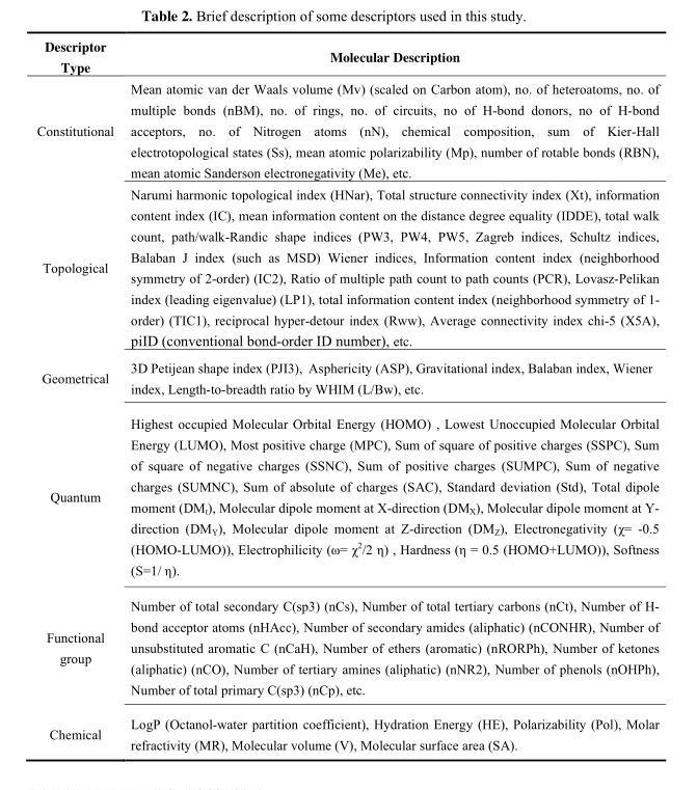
<table><thead><tr><td>Descriptor Type</td><td>Molecular Description</td></tr></thead><tbody><tr><td>Constitutional</td><td>Mean atomic van der Waals volume (Mv) (scaled on Carbon atom), no. of heteroatoms, no. of multiple bonds (nBM), no. of rings, no. of circuits, no of H-bond donors, no of H-bond acceptors, no. of Nitrogen atoms (nN), chemical composition, sum of Kier-Hall electrotopological states (Ss), mean atomic polarizability (Mp), number of rotable bonds (RBN), mean atomic Sanderson electronegativity (Me), etc.</td></tr><tr><td>Topological</td><td>Narumi harmonic topological index (HNar), Total structure connectivity index (Xt), information content index (IC), mean information content on the distance degree equality (IDDE), total walk count, path/walk-Randic shape indices (PW3, PW4, PW5, Zagreb indices, Schultz indices, Balaban J index (such as MSD) Wiener indices, Information content index (neighborhood symmetry of 2-order) (IC2), Ratio of multiple path count to path counts (PCR), Lovasz-Pelikan index (leading eigenvalue) (LP1), total information content index (neighborhood symmetry of 1- order) (TIC1), reciprocal hyper-detour index (Rww), Average connectivity index chi-5 (X5A), piID (conventional bond-order ID number), etc.</td></tr><tr><td>Geometrical</td><td>3D Petijean shape index (PJI3), Asphericity (ASP), Gravitational index, Balaban index, Wiener index, Length-to-breadth ratio by WHIM (L/Bw), etc.</td></tr><tr><td>Quantum</td><td>Highest occupied Molecular Orbital Energy (HOMO) , Lowest Unoccupied Molecular Orbital Energy (LUMO), Most positive charge (MPC), Sum of square of positive charges (SSPC), Sum of square of negative charges (SSNC), Sum of positive charges (SUMPC), Sum of negative charges (SUMNC), Sum of absolute of charges (SAC), Standard deviation (Std), Total dipole moment (DM<sub>t</sub>), Molecular dipole moment at X-direction (DM<sub>X</sub>), Molecular dipole moment at Y- direction (DM<sub>Y</sub>), Molecular dipole moment at Z-direction (DM<sub>Z</sub>), Electronegativity (χ= -0.5 (HOMO-LUMO)), Electrophilicity (ω= χ<sup>2</sup>/2 η) , Hardness (η = 0.5 (HOMO+ LUMO)), Softness (S=1/ η).</td></tr><tr><td>Functional group</td><td>Number of total secondary C(sp3) (nCs), Number of total tertiary carbons (nCt), Number of H- bond acceptor atoms (nHAcc), Number of secondary amides (aliphatic) (nCONHR), Number of unsubstituted aromatic C (nCaH), Number of ethers (aromatic) (nRORPh), Number of ketones (aliphatic) (nCO), Number of tertiary amines (aliphatic) (nNR2), Number of phenols (nOHPh), Number of total primary C(sp3) (nCp), etc.</td></tr><tr><td>Chemical</td><td>LogP (Octanol-water partition coefficient), Hydration Energy (HE), Polarizability (Pol), Molar refractivity (MR), Molecular volume (V), Molecular surface area (SA).</td></tr></tbody></table>